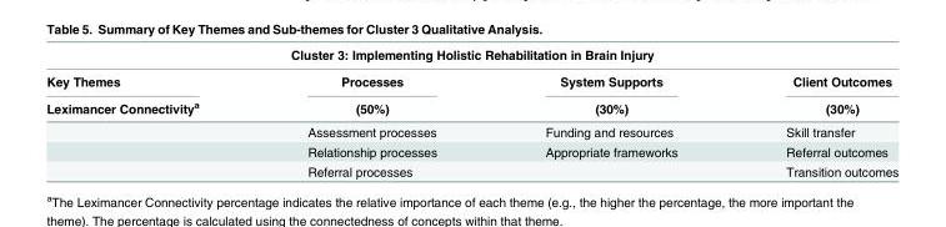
<table><thead><tr><td colspan="4">Cluster 3: Implementing Holistic Rehabilitation in Brain Injury</td></tr><tr><td rowspan="2">Key Themes Leximancer Connectivity<sup>a</sup></td><td rowspan="2">Processes (50%)</td><td rowspan="2">System Supports (30%)</td><td rowspan="2">Client Outcomes (30%)</td></tr><tr></tr></thead><tbody><tr><td></td><td>Assessment processes</td><td>Funding and resources</td><td>Skill transfer</td></tr><tr><td></td><td>Relationship processes</td><td>Appropriate frameworks</td><td>Referral outcomes</td></tr><tr><td></td><td>Referral processes</td><td></td><td>Transition outcomes</td></tr></tbody></table>